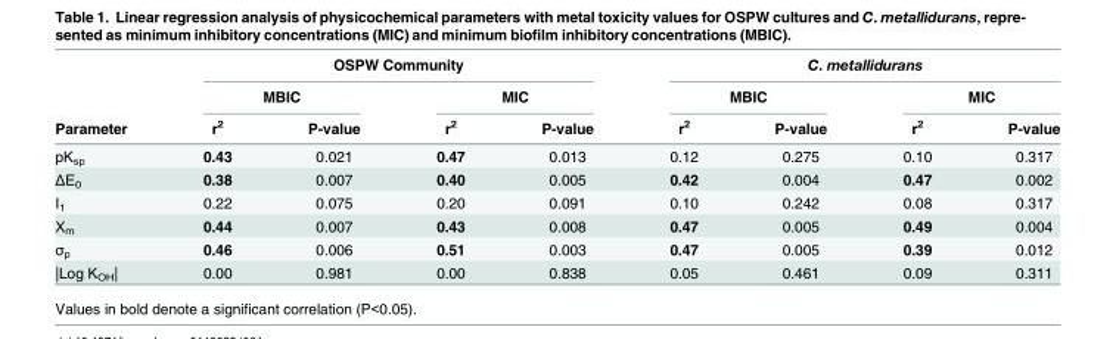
<table><thead><tr><td rowspan="3">Parameter</td><td colspan="4">OSPW Community</td><td colspan="4">C. metallidurans</td></tr><tr><td colspan="2">MBIC</td><td colspan="2">MIC</td><td colspan="2">MBIC</td><td colspan="2">MIC</td></tr><tr><td>r<sup>2</sup></td><td>P-value</td><td>r<sup>2</sup></td><td>P-value</td><td>r<sup>2</sup></td><td>P-value</td><td>r<sup>2</sup></td><td>P-value</td></tr></thead><tbody><tr><td>pK<sub>sp</sub></td><td>0.43</td><td>0.021</td><td>0.47</td><td>0.013</td><td>0.12</td><td>0.275</td><td>0.10</td><td>0.317</td></tr><tr><td>ΔE<sub>0</sub></td><td>0.38</td><td>0.007</td><td>0.40</td><td>0.005</td><td>0.42</td><td>0.004</td><td>0.47</td><td>0.002</td></tr><tr><td>I<sub>1</sub></td><td>0.22</td><td>0.075</td><td>0.20</td><td>0.091</td><td>0.10</td><td>0.242</td><td>0.08</td><td>0.317</td></tr><tr><td>Χ<sub>m</sub></td><td>0.44</td><td>0.007</td><td>0.43</td><td>0.008</td><td>0.47</td><td>0.005</td><td>0.49</td><td>0.004</td></tr><tr><td>σ<sub>p</sub></td><td>0.46</td><td>0.006</td><td>0.51</td><td>0.003</td><td>0.47</td><td>0.005</td><td>0.39</td><td>0.012</td></tr><tr><td>|Log K<sub>OH</sub>|</td><td>0.00</td><td>0.981</td><td>0.00</td><td>0.838</td><td>0.05</td><td>0.461</td><td>0.09</td><td>0.311</td></tr></tbody></table>